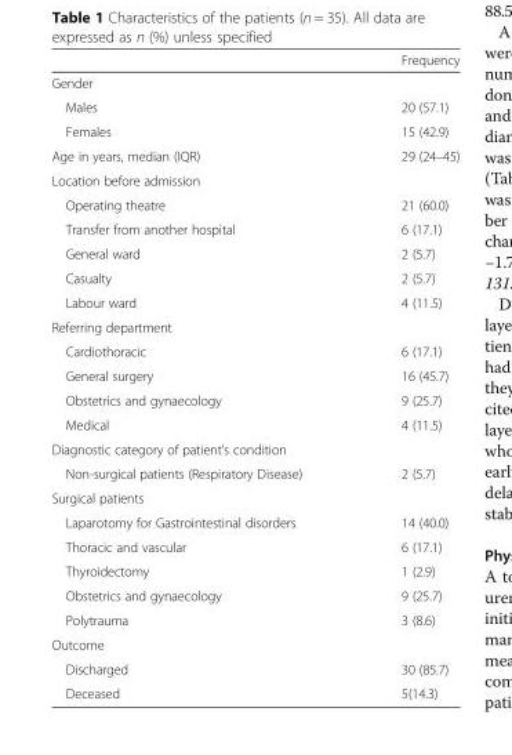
<table><thead><tr><td></td><td>Frequency</td></tr></thead><tbody><tr><td colspan="2">Gender</td></tr><tr><td>Males</td><td>20 (57.1)</td></tr><tr><td>Females</td><td>15 (42.9)</td></tr><tr><td>Age in years, median (IQR)</td><td>29 (24–45)</td></tr><tr><td colspan="2">Location before admission</td></tr><tr><td>Operating theatre</td><td>21 (60.0)</td></tr><tr><td>Transfer from another hospital</td><td>6 (17.1)</td></tr><tr><td>General ward</td><td>2 (5.7)</td></tr><tr><td>Casualty</td><td>2 (5.7)</td></tr><tr><td>Labour ward</td><td>4 (11.5)</td></tr><tr><td colspan="2">Referring department</td></tr><tr><td>Cardiothoracic</td><td>6 (17.1)</td></tr><tr><td>General surgery</td><td>16 (45.7)</td></tr><tr><td>Obstetrics and gynaecology</td><td>9 (25.7)</td></tr><tr><td>Medical</td><td>4 (11.5)</td></tr><tr><td colspan="2">Diagnostic category of patient’s condition</td></tr><tr><td>Non-surgical patients (Respiratory Disease)</td><td>2 (5.7)</td></tr><tr><td colspan="2">Surgical patients</td></tr><tr><td>Laparotomy for Gastrointestinal disorders</td><td>14 (40.0)</td></tr><tr><td>Thoracic and vascular</td><td>6 (17.1)</td></tr><tr><td>Thyroidectomy</td><td>1 (2.9)</td></tr><tr><td>Obstetrics and gynaecology</td><td>9 (25.7)</td></tr><tr><td>Polytrauma</td><td>3 (8.6)</td></tr><tr><td colspan="2">Outcome</td></tr><tr><td>Discharged</td><td>30 (85.7)</td></tr><tr><td>Deceased</td><td>5(14.3)</td></tr></tbody></table>